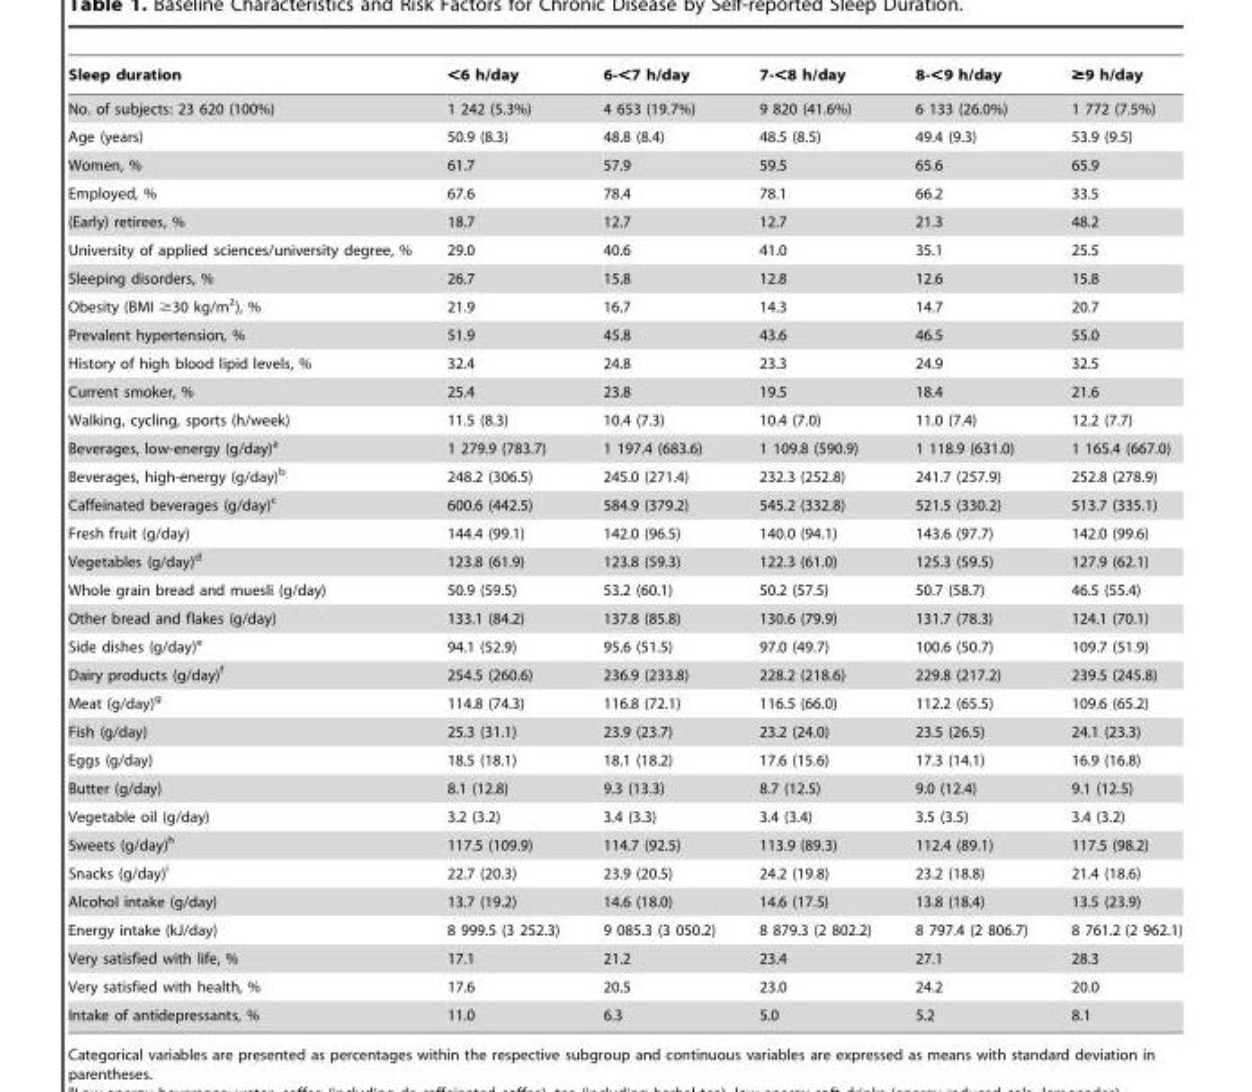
<table><thead><tr><td>Sleep duration</td><td>&lt;6 h/day</td><td>6-&lt;7 h/day</td><td>7-&lt;8 h/day</td><td>8-&lt;9 h/day</td><td>≥9 h/day</td></tr></thead><tbody><tr><td>No. of subjects: 23 620 (100%)</td><td>1 242 (5.3%)</td><td>4 653 (19.7%)</td><td>9 820 (41.6%)</td><td>6 133 (26.0%)</td><td>1 772 (7.5%)</td></tr><tr><td>Age (years)</td><td>50.9 (8.3)</td><td>48.8 (8.4)</td><td>48.5 (8.5)</td><td>49.4 (9.3)</td><td>53.9 (9.5)</td></tr><tr><td>Women, %</td><td>61.7</td><td>57.9</td><td>59.5</td><td>65.6</td><td>65.9</td></tr><tr><td>Employed, %</td><td>67.6</td><td>78.4</td><td>78.1</td><td>66.2</td><td>33.5</td></tr><tr><td>(Early) retirees, %</td><td>18.7</td><td>12.7</td><td>12.7</td><td>21.3</td><td>48.2</td></tr><tr><td>University of applied sciences/university degree, %</td><td>29.0</td><td>40.6</td><td>41.0</td><td>35.1</td><td>25.5</td></tr><tr><td>Sleeping disorders, %</td><td>26.7</td><td>15.8</td><td>12.8</td><td>12.6</td><td>15.8</td></tr><tr><td>Obesity (BMI ≥30 kg/m<sup>2</sup>), %</td><td>21.9</td><td>16.7</td><td>14.3</td><td>14.7</td><td>20.7</td></tr><tr><td>Prevalent hypertension, %</td><td>51.9</td><td>45.8</td><td>43.6</td><td>46.5</td><td>55.0</td></tr><tr><td>History of high blood lipid levels, %</td><td>32.4</td><td>24.8</td><td>23.3</td><td>24.9</td><td>32.5</td></tr><tr><td>Current smoker, %</td><td>25.4</td><td>23.8</td><td>19.5</td><td>18.4</td><td>21.6</td></tr><tr><td>Walking, cycling, sports (h/week)</td><td>11.5 (8.3)</td><td>10.4 (7.3)</td><td>10.4 (7.0)</td><td>11.0 (7.4)</td><td>12.2 (7.7)</td></tr><tr><td>Beverages, low-energy (g/day)<sup>a</sup></td><td>1 279.9 (783.7)</td><td>1 197.4 (683.6)</td><td>1 109.8 (590.9)</td><td>1 118.9 (631.0)</td><td>1 165.4 (667.0)</td></tr><tr><td>Beverages, high-energy (g/day)<sup>b</sup></td><td>248.2 (306.5)</td><td>245.0 (271.4)</td><td>232.3 (252.8)</td><td>241.7 (257.9)</td><td>252.8 (278.9)</td></tr><tr><td>Caffeinated beverages (g/day)<sup>c</sup></td><td>600.6 (442.5)</td><td>584.9 (379.2)</td><td>545.2 (332.8)</td><td>521.5 (330.2)</td><td>513.7 (335.1)</td></tr><tr><td>Fresh fruit (g/day)</td><td>144.4 (99.1)</td><td>142.0 (96.5)</td><td>140.0 (94.1)</td><td>143.6 (97.7)</td><td>142.0 (99.6)</td></tr><tr><td>Vegetables (g/day)<sup>d</sup></td><td>123.8 (61.9)</td><td>123.8 (59.3)</td><td>122.3 (61.0)</td><td>125.3 (59.5)</td><td>127.9 (62.1)</td></tr><tr><td>Whole grain bread and muesli (g/day)</td><td>50.9 (59.5)</td><td>53.2 (60.1)</td><td>50.2 (57.5)</td><td>50.7 (58.7)</td><td>46.5 (55.4)</td></tr><tr><td>Other bread and flakes (g/day)</td><td>133.1 (84.2)</td><td>137.8 (85.8)</td><td>130.6 (79.9)</td><td>131.7 (78.3)</td><td>124.1 (70.1)</td></tr><tr><td>Side dishes (g/day)<sup>e</sup></td><td>94.1 (52.9)</td><td>95.6 (51.5)</td><td>97.0 (49.7)</td><td>100.6 (50.7)</td><td>109.7 (51.9)</td></tr><tr><td>Dairy products (g/day)<sup>f</sup></td><td>254.5 (260.6)</td><td>236.9 (233.8)</td><td>228.2 (218.6)</td><td>229.8 (217.2)</td><td>239.5 (245.8)</td></tr><tr><td>Meat (g/day)<sup>g</sup></td><td>114.8 (74.3)</td><td>116.8 (72.1)</td><td>116.5 (66.0)</td><td>112.2 (65.5)</td><td>109.6 (65.2)</td></tr><tr><td>Fish (g/day)</td><td>25.3 (31.1)</td><td>23.9 (23.7)</td><td>23.2 (24.0)</td><td>23.5 (26.5)</td><td>24.1 (23.3)</td></tr><tr><td>Eggs (g/day)</td><td>18.5 (18.1)</td><td>18.1 (18.2)</td><td>17.6 (15.6)</td><td>17.3 (14.1)</td><td>16.9 (16.8)</td></tr><tr><td>Butter (g/day)</td><td>8.1 (12.8)</td><td>9.3 (13.3)</td><td>8.7 (12.5)</td><td>9.0 (12.4)</td><td>9.1 (12.5)</td></tr><tr><td>Vegetable oil (g/day)</td><td>3.2 (3.2)</td><td>3.4 (3.3)</td><td>3.4 (3.4)</td><td>3.5 (3.5)</td><td>3.4 (3.2)</td></tr><tr><td>Sweets (g/day)<sup>h</sup></td><td>117.5 (109.9)</td><td>114.7 (92.5)</td><td>113.9 (89.3)</td><td>112.4 (89.1)</td><td>117.5 (98.2)</td></tr><tr><td>Snacks (g/day)<sup>i</sup></td><td>22.7 (20.3)</td><td>23.9 (20.5)</td><td>24.2 (19.8)</td><td>23.2 (18.8)</td><td>21.4 (18.6)</td></tr><tr><td>Alcohol intake (g/day)</td><td>13.7 (19.2)</td><td>14.6 (18.0)</td><td>14.6 (17.5)</td><td>13.8 (18.4)</td><td>13.5 (23.9)</td></tr><tr><td>Energy intake (kJ/day)</td><td>8 999.5 (3 252.3)</td><td>9 085.3 (3 050.2)</td><td>8 879.3 (2 802.2)</td><td>8 797.4 (2 806.7)</td><td>8 761.2 (2 962.1)</td></tr><tr><td>Very satisfied with life, %</td><td>17.1</td><td>21.2</td><td>23.4</td><td>27.1</td><td>28.3</td></tr><tr><td>Very satisfied with health, %</td><td>17.6</td><td>20.5</td><td>23.0</td><td>24.2</td><td>20.0</td></tr><tr><td>Intake of antidepressants, %</td><td>11.0</td><td>6.3</td><td>5.0</td><td>5.2</td><td>8.1</td></tr></tbody></table>